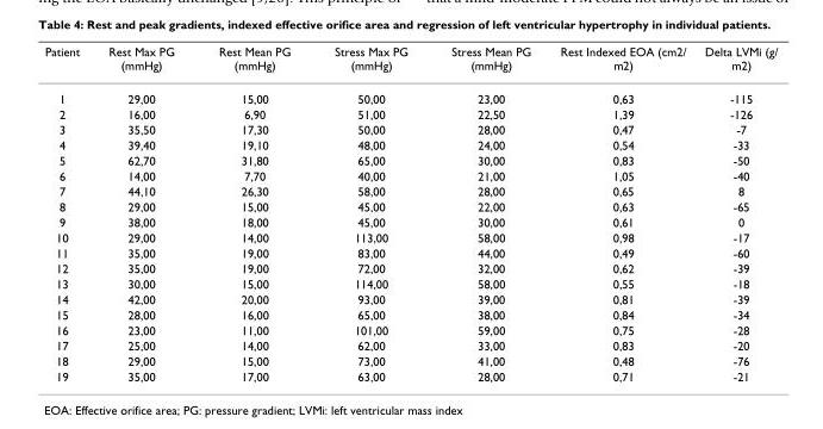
<table><thead><tr><td>Patient</td><td>Rest Max PG (mmHg)</td><td>Rest Mean PG (mmHg)</td><td>Stress Max PG (mmHg)</td><td>Stress Mean PG (mmHg)</td><td>Rest Indexed EOA (cm2/ m2)</td><td>Delta LVMi (g/ m2)</td></tr></thead><tbody><tr><td>1</td><td>29,00</td><td>15,00</td><td>50,00</td><td>23,00</td><td>0,63</td><td>-115</td></tr><tr><td>2</td><td>16,00</td><td>6,90</td><td>51,00</td><td>22,50</td><td>1,39</td><td>-126</td></tr><tr><td>3</td><td>35,50</td><td>17,30</td><td>50,00</td><td>28,00</td><td>0,47</td><td>-7</td></tr><tr><td>4</td><td>39,40</td><td>19,10</td><td>48,00</td><td>24,00</td><td>0,54</td><td>-33</td></tr><tr><td>5</td><td>62,70</td><td>31,80</td><td>65,00</td><td>30,00</td><td>0,83</td><td>-50</td></tr><tr><td>6</td><td>14,00</td><td>7,70</td><td>40,00</td><td>21,00</td><td>1,05</td><td>-40</td></tr><tr><td>7</td><td>44,10</td><td>26,30</td><td>58,00</td><td>28,00</td><td>0,65</td><td>8</td></tr><tr><td>8</td><td>29,00</td><td>15,00</td><td>45,00</td><td>22,00</td><td>0,63</td><td>-65</td></tr><tr><td>9</td><td>38,00</td><td>18,00</td><td>45,00</td><td>30,00</td><td>0,61</td><td>0</td></tr><tr><td>10</td><td>29,00</td><td>14,00</td><td>113,00</td><td>58,00</td><td>0,98</td><td>-17</td></tr><tr><td>11</td><td>35,00</td><td>19,00</td><td>83,00</td><td>44,00</td><td>0,49</td><td>-60</td></tr><tr><td>12</td><td>35,00</td><td>19,00</td><td>72,00</td><td>32,00</td><td>0,62</td><td>-39</td></tr><tr><td>13</td><td>30,00</td><td>15,00</td><td>114,00</td><td>58,00</td><td>0,55</td><td>-18</td></tr><tr><td>14</td><td>42,00</td><td>20,00</td><td>93,00</td><td>39,00</td><td>0,81</td><td>-39</td></tr><tr><td>15</td><td>28,00</td><td>16,00</td><td>65,00</td><td>38,00</td><td>0,84</td><td>-34</td></tr><tr><td>16</td><td>23,00</td><td>11,00</td><td>101,00</td><td>59,00</td><td>0,75</td><td>-28</td></tr><tr><td>17</td><td>25,00</td><td>14,00</td><td>62,00</td><td>33,00</td><td>0,83</td><td>-20</td></tr><tr><td>18</td><td>29,00</td><td>15,00</td><td>73,00</td><td>41,00</td><td>0,48</td><td>-76</td></tr><tr><td>19</td><td>35,00</td><td>17,00</td><td>63,00</td><td>28,00</td><td>0,71</td><td>-21</td></tr></tbody></table>